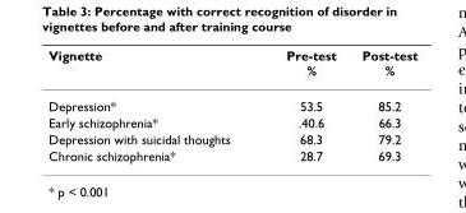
<table><thead><tr><td>Vignette</td><td>Pre-test %</td><td>Post-test %</td></tr></thead><tbody><tr><td>Depression*</td><td>53.5</td><td>85.2</td></tr><tr><td>Early schizophrenia*</td><td>.40.6</td><td>66.3</td></tr><tr><td>Depression with suicidal thoughts</td><td>68.3</td><td>79.2</td></tr><tr><td>Chronic schizophrenia*</td><td>28.7</td><td>69.3</td></tr></tbody></table>